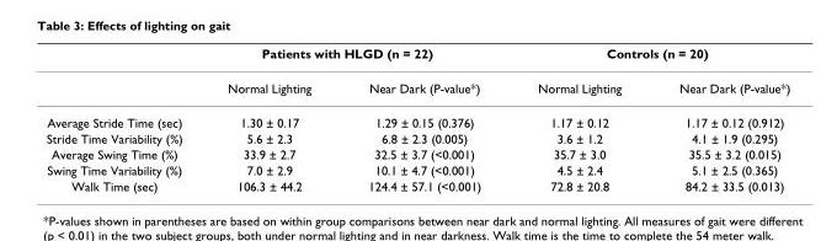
<table><thead><tr><td rowspan="2"></td><td colspan="2">Patients with HLGD (n = 22)</td><td colspan="2">Controls (n = 20)</td></tr><tr><td>Normal Lighting</td><td>Near Dark (P-value*)</td><td>Normal Lighting</td><td>Near Dark (P-value*)</td></tr></thead><tbody><tr><td>Average Stride Time (sec)</td><td>1.30 ± 0.17</td><td>1.29 ± 0.15 (0.376)</td><td>1.17 ± 0.12</td><td>1.17 ± 0.12 (0.912)</td></tr><tr><td>Stride Time Variability (%)</td><td>5.6 ± 2.3</td><td>6.8 ± 2.3 (0.005)</td><td>3.6 ± 1.2</td><td>4.1 ± 1.9 (0.295)</td></tr><tr><td>Average Swing Time (%)</td><td>33.9 ± 2.7</td><td>32.5 ± 3.7 (&lt;0.001)</td><td>35.7 ± 3.0</td><td>35.5 ± 3.2 (0.015)</td></tr><tr><td>Swing Time Variability (%)</td><td>7.0 ± 2.9</td><td>10.1 ± 4.7 (&lt;0.001)</td><td>4.5 ± 2.4</td><td>5.1 ± 2.5 (0.365)</td></tr><tr><td>Walk Time (sec)</td><td>106.3 ± 44.2</td><td>124.4 ± 57.1 (&lt;0.001)</td><td>72.8 ± 20.8</td><td>84.2 ± 33.5 (0.013)</td></tr></tbody></table>